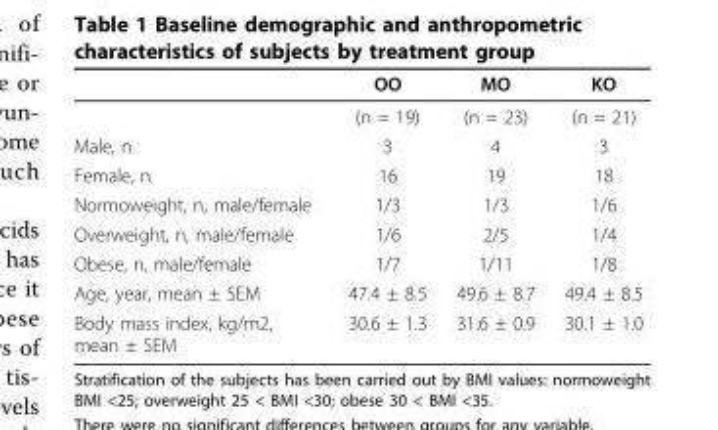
<table><thead><tr><td></td><td>OO</td><td>MO</td><td>KO</td></tr></thead><tbody><tr><td></td><td>(n = 19)</td><td>(n = 23)</td><td>(n = 21)</td></tr><tr><td>Male, n</td><td>3</td><td>4</td><td>3</td></tr><tr><td>Female, n</td><td>16</td><td>19</td><td>18</td></tr><tr><td>Normoweight, n, male/female</td><td>1/3</td><td>1/3</td><td>1/6</td></tr><tr><td>Overweight, n, male/female</td><td>1/6</td><td>2/5</td><td>1/4</td></tr><tr><td>Obese, n, male/female</td><td>1/7</td><td>1/11</td><td>1/8</td></tr><tr><td>Age, year, mean ± SEM</td><td>47.4 ± 8.5</td><td>49.6 ± 8.7</td><td>49.4 ± 8.5</td></tr><tr><td>Body mass index, kg/m2, mean ± SEM</td><td>30.6 ± 1.3</td><td>31.6 ± 0.9</td><td>30.1 ± 1.0</td></tr></tbody></table>